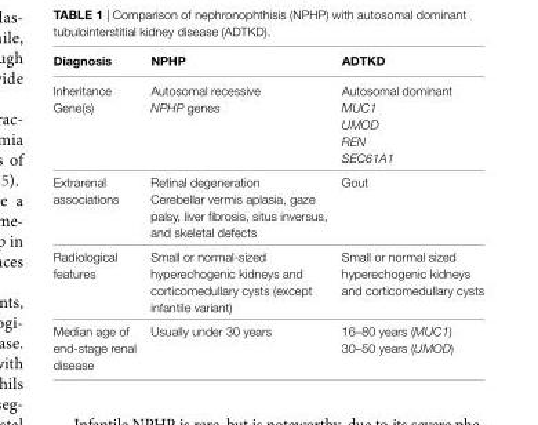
<table><thead><tr><td>Diagnosis</td><td>NPHP</td><td>ADTKD</td></tr></thead><tbody><tr><td>Inheritance</td><td>Autosomal recessive</td><td>Autosomal dominant</td></tr><tr><td>Gene(s)</td><td>NPHP genes</td><td>MUC1 UMOD REN SEC61A1</td></tr><tr><td>Extrarenal associations</td><td>Retinal degeneration Cerebellar vermis aplasia, gaze palsy, liver fibrosis, situs inversus, and skeletal defects</td><td>Gout</td></tr><tr><td>Radiological features</td><td>Small or normal-sized hyperechogenic kidneys and corticomedullary cysts (except infantile variant)</td><td>Small or normal sized hyperechogenic kidneys and corticomedullary cysts</td></tr><tr><td>Median age of end-stage renal disease</td><td>Usually under 30 years</td><td>16–80 years (MUC1) 30–50 years (UMOD)</td></tr></tbody></table>